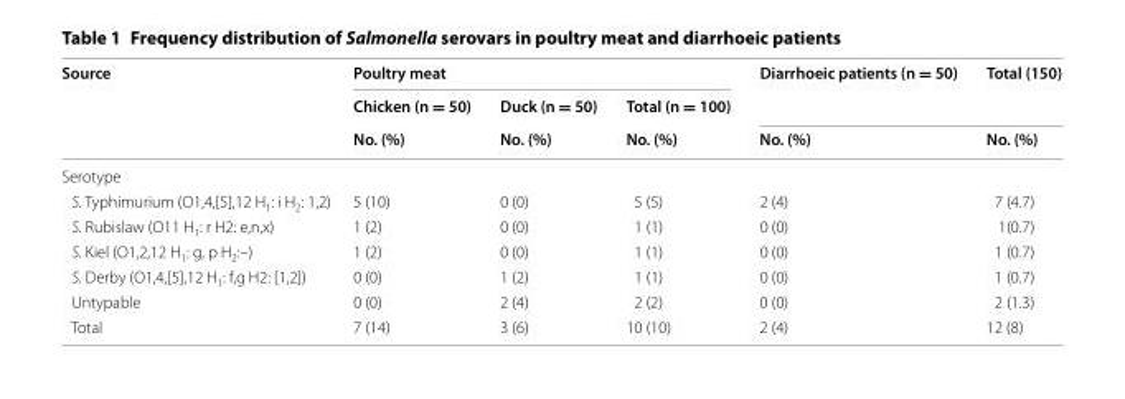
<table><thead><tr><td rowspan="3">Source</td><td colspan="3">Poultry meat</td><td rowspan="3">Diarrhoeic patients (n = 50) No. (%)</td><td rowspan="3">Total (150) No. (%)</td></tr><tr><td rowspan="2">Chicken (n = 50) No. (%)</td><td rowspan="2">Duck (n = 50) No. (%)</td><td rowspan="2">Total (n = 100) No. (%)</td></tr><tr></tr></thead><tbody><tr><td colspan="6">Serotype</td></tr><tr><td>S. Typhimurium (O1,4,[5],12 H<sub>1</sub>: i H<sub>2</sub>: 1,2)</td><td>5 (10)</td><td>0 (0)</td><td>5 (5)</td><td>2 (4)</td><td>7 (4.7)</td></tr><tr><td>S. Rubislaw (O11 H<sub>1</sub>: r H2: e,n,x)</td><td>1 (2)</td><td>0 (0)</td><td>1 (1)</td><td>0 (0)</td><td>1(0.7)</td></tr><tr><td>S. Kiel (O1,2,12 H<sub>1</sub>: g, p H<sub>2</sub>:–)</td><td>1 (2)</td><td>0 (0)</td><td>1 (1)</td><td>0 (0)</td><td>1 (0.7)</td></tr><tr><td>S. Derby (O1,4,[5],12 H<sub>1</sub>: f,g H2: [1,2])</td><td>0 (0)</td><td>1 (2)</td><td>1 (1)</td><td>0 (0)</td><td>1 (0.7)</td></tr><tr><td>Untypable</td><td>0 (0)</td><td>2 (4)</td><td>2 (2)</td><td>0 (0)</td><td>2 (1.3)</td></tr><tr><td>Total</td><td>7 (14)</td><td>3 (6)</td><td>10 (10)</td><td>2 (4)</td><td>12 (8)</td></tr></tbody></table>